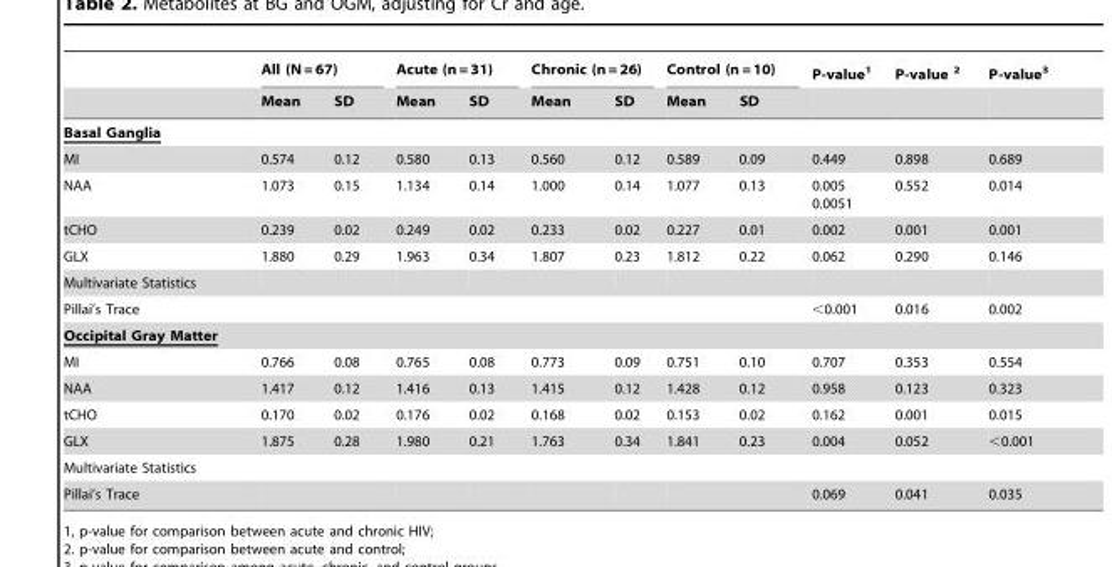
<table><thead><tr><td rowspan="2"></td><td colspan="2">All (N = 67)</td><td colspan="2">Acute (n = 31)</td><td colspan="2">Chronic (n = 26)</td><td colspan="2">Control (n = 10)</td><td rowspan="2">P-value<sup>1</sup></td><td rowspan="2">P-value <sup>2</sup></td><td rowspan="2">P-value<sup>3</sup></td></tr><tr><td>Mean</td><td>SD</td><td>Mean</td><td>SD</td><td>Mean</td><td>SD</td><td>Mean</td><td>SD</td></tr></thead><tbody><tr><td colspan="12">Basal Ganglia</td></tr><tr><td>MI</td><td>0.574</td><td>0.12</td><td>0.580</td><td>0.13</td><td>0.560</td><td>0.12</td><td>0.589</td><td>0.09</td><td>0.449</td><td>0.898</td><td>0.689</td></tr><tr><td>NAA</td><td>1.073</td><td>0.15</td><td>1.134</td><td>0.14</td><td>1.000</td><td>0.14</td><td>1.077</td><td>0.13</td><td>0.005 0.0051</td><td>0.552</td><td>0.014</td></tr><tr><td>tCHO</td><td>0.239</td><td>0.02</td><td>0.249</td><td>0.02</td><td>0.233</td><td>0.02</td><td>0.227</td><td>0.01</td><td>0.002</td><td>0.001</td><td>0.001</td></tr><tr><td>GLX</td><td>1.880</td><td>0.29</td><td>1.963</td><td>0.34</td><td>1.807</td><td>0.23</td><td>1.812</td><td>0.22</td><td>0.062</td><td>0.290</td><td>0.146</td></tr><tr><td colspan="12">Multivariate Statistics</td></tr><tr><td>Pillai’s Trace</td><td></td><td></td><td></td><td></td><td></td><td></td><td></td><td></td><td>&lt;0.001</td><td>0.016</td><td>0.002</td></tr><tr><td colspan="12">Occipital Gray Matter</td></tr><tr><td>MI</td><td>0.766</td><td>0.08</td><td>0.765</td><td>0.08</td><td>0.773</td><td>0.09</td><td>0.751</td><td>0.10</td><td>0.707</td><td>0.353</td><td>0.554</td></tr><tr><td>NAA</td><td>1.417</td><td>0.12</td><td>1.416</td><td>0.13</td><td>1.415</td><td>0.12</td><td>1.428</td><td>0.12</td><td>0.958</td><td>0.123</td><td>0.323</td></tr><tr><td>tCHO</td><td>0.170</td><td>0.02</td><td>0.176</td><td>0.02</td><td>0.168</td><td>0.02</td><td>0.153</td><td>0.02</td><td>0.162</td><td>0.001</td><td>0.015</td></tr><tr><td>GLX</td><td>1.875</td><td>0.28</td><td>1.980</td><td>0.21</td><td>1.763</td><td>0.34</td><td>1.841</td><td>0.23</td><td>0.004</td><td>0.052</td><td>&lt;0.001</td></tr><tr><td colspan="12">Multivariate Statistics</td></tr><tr><td>Pillai’s Trace</td><td></td><td></td><td></td><td></td><td></td><td></td><td></td><td></td><td>0.069</td><td>0.041</td><td>0.035</td></tr></tbody></table>